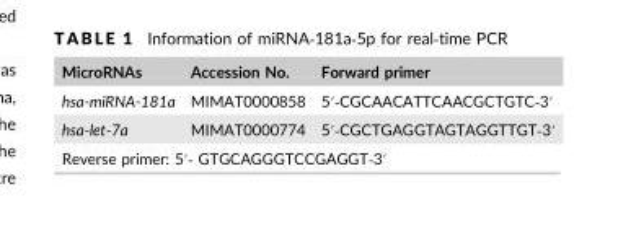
<table><thead><tr><td>MicroRNAs</td><td>Accession No.</td><td>Forward primer</td></tr></thead><tbody><tr><td>hsa-miRNA-181a</td><td>MIMAT0000858</td><td>5′‐CGCAACATTCAACGCTGTC‐3′</td></tr><tr><td>hsa-let-7a</td><td>MIMAT0000774</td><td>5′‐CGCTGAGGTAGTAGGTTGT‐3′</td></tr><tr><td colspan="3">Reverse primer: 5′‐ GTGCAGGGTCCGAGGT‐3′</td></tr></tbody></table>